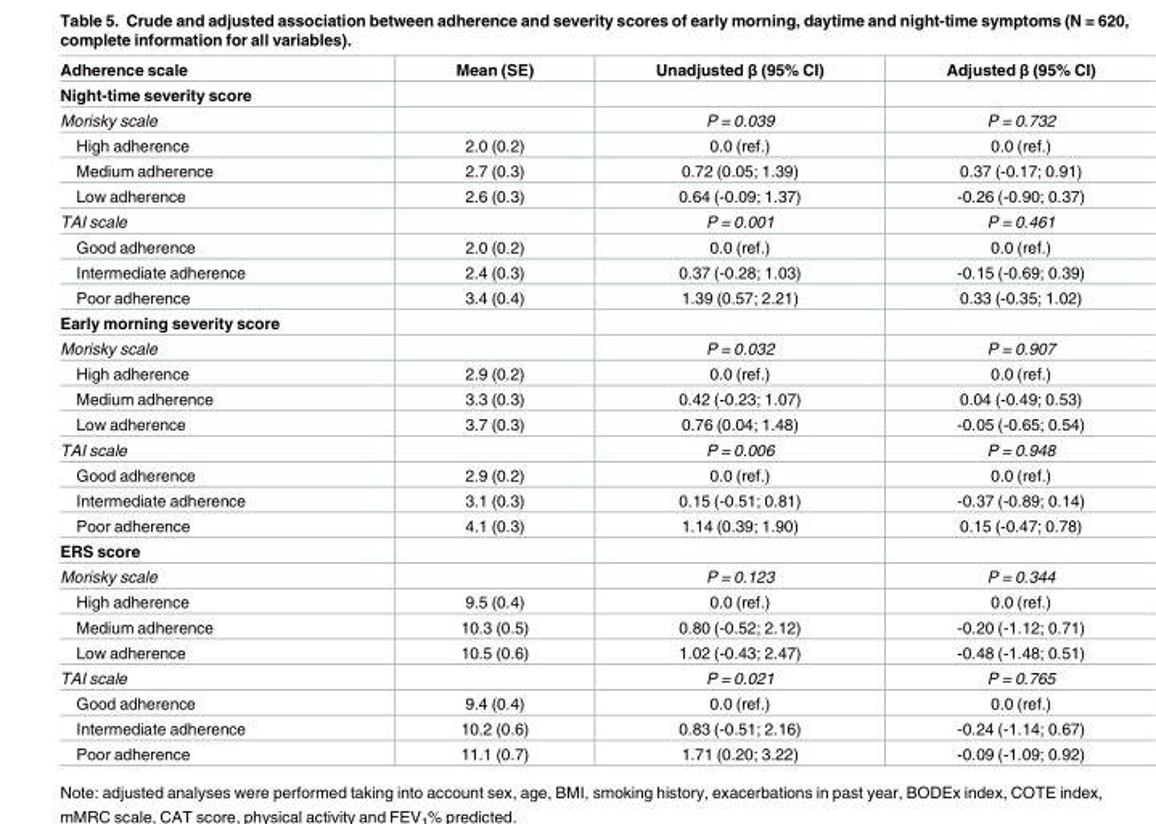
<table><thead><tr><td>Adherence scale</td><td>Mean (SE)</td><td>Unadjusted β (95% CI)</td><td>Adjusted β (95% CI)</td></tr></thead><tbody><tr><td colspan="4">Night-time severity score</td></tr><tr><td>Morisky scale</td><td></td><td>P = 0.039</td><td>P = 0.732</td></tr><tr><td>High adherence</td><td>2.0 (0.2)</td><td>0.0 (ref.)</td><td>0.0 (ref.)</td></tr><tr><td>Medium adherence</td><td>2.7 (0.3)</td><td>0.72 (0.05; 1.39)</td><td>0.37 (-0.17; 0.91)</td></tr><tr><td>Low adherence</td><td>2.6 (0.3)</td><td>0.64 (-0.09; 1.37)</td><td>-0.26 (-0.90; 0.37)</td></tr><tr><td>TAI scale</td><td></td><td>P = 0.001</td><td>P = 0.461</td></tr><tr><td>Good adherence</td><td>2.0 (0.2)</td><td>0.0 (ref.)</td><td>0.0 (ref.)</td></tr><tr><td>Intermediate adherence</td><td>2.4 (0.3)</td><td>0.37 (-0.28; 1.03)</td><td>-0.15 (-0.69; 0.39)</td></tr><tr><td>Poor adherence</td><td>3.4 (0.4)</td><td>1.39 (0.57; 2.21)</td><td>0.33 (-0.35; 1.02)</td></tr><tr><td colspan="4">Early morning severity score</td></tr><tr><td>Morisky scale</td><td></td><td>P = 0.032</td><td>P = 0.907</td></tr><tr><td>High adherence</td><td>2.9 (0.2)</td><td>0.0 (ref.)</td><td>0.0 (ref.)</td></tr><tr><td>Medium adherence</td><td>3.3 (0.3)</td><td>0.42 (-0.23; 1.07)</td><td>0.04 (-0.49; 0.53)</td></tr><tr><td>Low adherence</td><td>3.7 (0.3)</td><td>0.76 (0.04; 1.48)</td><td>-0.05 (-0.65; 0.54)</td></tr><tr><td>TAI scale</td><td></td><td>P = 0.006</td><td>P = 0.948</td></tr><tr><td>Good adherence</td><td>2.9 (0.2)</td><td>0.0 (ref.)</td><td>0.0 (ref.)</td></tr><tr><td>Intermediate adherence</td><td>3.1 (0.3)</td><td>0.15 (-0.51; 0.81)</td><td>-0.37 (-0.89; 0.14)</td></tr><tr><td>Poor adherence</td><td>4.1 (0.3)</td><td>1.14 (0.39; 1.90)</td><td>0.15 (-0.47; 0.78)</td></tr><tr><td colspan="4">ERS score</td></tr><tr><td>Morisky scale</td><td></td><td>P = 0.123</td><td>P = 0.344</td></tr><tr><td>High adherence</td><td>9.5 (0.4)</td><td>0.0 (ref.)</td><td>0.0 (ref.)</td></tr><tr><td>Medium adherence</td><td>10.3 (0.5)</td><td>0.80 (-0.52; 2.12)</td><td>-0.20 (-1.12; 0.71)</td></tr><tr><td>Low adherence</td><td>10.5 (0.6)</td><td>1.02 (-0.43; 2.47)</td><td>-0.48 (-1.48; 0.51)</td></tr><tr><td>TAI scale</td><td></td><td>P = 0.021</td><td>P = 0.765</td></tr><tr><td>Good adherence</td><td>9.4 (0.4)</td><td>0.0 (ref.)</td><td>0.0 (ref.)</td></tr><tr><td>Intermediate adherence</td><td>10.2 (0.6)</td><td>0.83 (-0.51; 2.16)</td><td>-0.24 (-1.14; 0.67)</td></tr><tr><td>Poor adherence</td><td>11.1 (0.7)</td><td>1.71 (0.20; 3.22)</td><td>-0.09 (-1.09; 0.92)</td></tr></tbody></table>